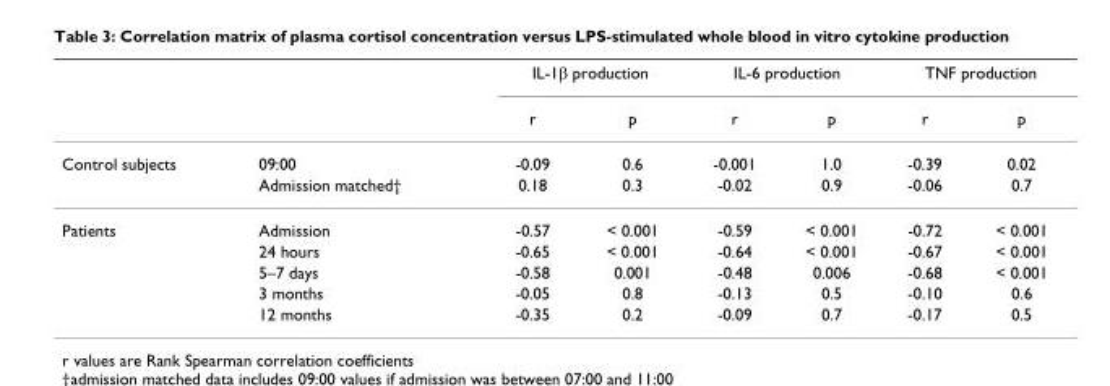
<table><thead><tr><td rowspan="2"></td><td rowspan="2"></td><td colspan="2">IL-1β production</td><td colspan="2">IL-6 production</td><td colspan="2">TNF production</td></tr><tr><td>r</td><td>p</td><td>r</td><td>p</td><td>r</td><td>p</td></tr></thead><tbody><tr><td rowspan="2">Control subjects</td><td>09:00</td><td>-0.09</td><td>0.6</td><td>-0.001</td><td>1.0</td><td>-0.39</td><td>0.02</td></tr><tr><td>Admission matched†</td><td>0.18</td><td>0.3</td><td>-0.02</td><td>0.9</td><td>-0.06</td><td>0.7</td></tr><tr><td rowspan="5">Patients</td><td>Admission</td><td>-0.57</td><td>&lt; 0.001</td><td>-0.59</td><td>&lt; 0.001</td><td>-0.72</td><td>&lt; 0.001</td></tr><tr><td>24 hours</td><td>-0.65</td><td>&lt; 0.001</td><td>-0.64</td><td>&lt; 0.001</td><td>-0.67</td><td>&lt; 0.001</td></tr><tr><td>5–7 days</td><td>-0.58</td><td>0.001</td><td>-0.48</td><td>0.006</td><td>-0.68</td><td>&lt; 0.001</td></tr><tr><td>3 months</td><td>-0.05</td><td>0.8</td><td>-0.13</td><td>0.5</td><td>-0.10</td><td>0.6</td></tr><tr><td>12 months</td><td>-0.35</td><td>0.2</td><td>-0.09</td><td>0.7</td><td>-0.17</td><td>0.5</td></tr></tbody></table>